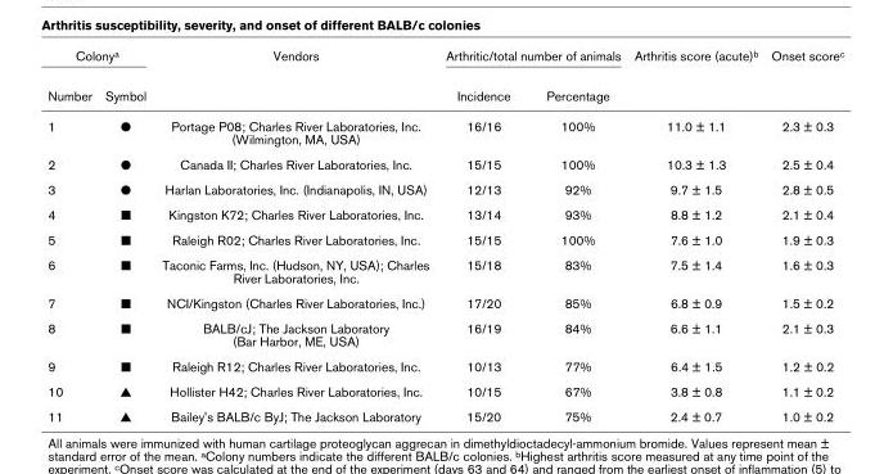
<table><thead><tr><td colspan="2">Colony<sup>a</sup></td><td rowspan="2">Vendors</td><td colspan="2">Arthritic/total number of animals</td><td rowspan="2">Arthritis score (acute)<sup>b</sup></td><td rowspan="2">Onset score<sup>c</sup></td></tr><tr><td>Number</td><td>Symbol</td><td>Incidence</td><td>Percentage</td></tr></thead><tbody><tr><td>1</td><td>●</td><td>Portage P08; Charles River Laboratories, Inc. (Wilmington, MA, USA)</td><td>16/16</td><td>100%</td><td>11.0 ± 1.1</td><td>2.3 ± 0.3</td></tr><tr><td>2</td><td>●</td><td>Canada II; Charles River Laboratories, Inc.</td><td>15/15</td><td>100%</td><td>10.3 ± 1.3</td><td>2.5 ± 0.4</td></tr><tr><td>3</td><td>●</td><td>Harlan Laboratories, Inc. (Indianapolis, IN, USA)</td><td>12/13</td><td>92%</td><td>9.7 ± 1.5</td><td>2.8 ± 0.5</td></tr><tr><td>4</td><td>■</td><td>Kingston K72; Charles River Laboratories, Inc.</td><td>13/14</td><td>93%</td><td>8.8 ± 1.2</td><td>2.1 ± 0.4</td></tr><tr><td>5</td><td>■</td><td>Raleigh R02; Charles River Laboratories, Inc.</td><td>15/15</td><td>100%</td><td>7.6 ± 1.0</td><td>1.9 ± 0.3</td></tr><tr><td>6</td><td>■</td><td>Taconic Farms, Inc. (Hudson, NY, USA); Charles River Laboratories, Inc.</td><td>15/18</td><td>83%</td><td>7.5 ± 1.4</td><td>1.6 ± 0.3</td></tr><tr><td>7</td><td>■</td><td>NCI/Kingston (Charles River Laboratories, Inc.)</td><td>17/20</td><td>85%</td><td>6.8 ± 0.9</td><td>1.5 ± 0.2</td></tr><tr><td>8</td><td>■</td><td>BALB/cJ; The Jackson Laboratory (Bar Harbor, ME, USA)</td><td>16/19</td><td>84%</td><td>6.6 ± 1.1</td><td>2.1 ± 0.3</td></tr><tr><td>9</td><td>■</td><td>Raleigh R12; Charles River Laboratories, Inc.</td><td>10/13</td><td>77%</td><td>6.4 ± 1.5</td><td>1.2 ± 0.2</td></tr><tr><td>10</td><td>▲</td><td>Hollister H42; Charles River Laboratories, Inc.</td><td>10/15</td><td>67%</td><td>3.8 ± 0.8</td><td>1.1 ± 0.2</td></tr><tr><td>11</td><td>▲</td><td>Bailey&#x27;s BALB/c ByJ; The Jackson Laboratory</td><td>15/20</td><td>75%</td><td>2.4 ± 0.7</td><td>1.0 ± 0.2</td></tr></tbody></table>